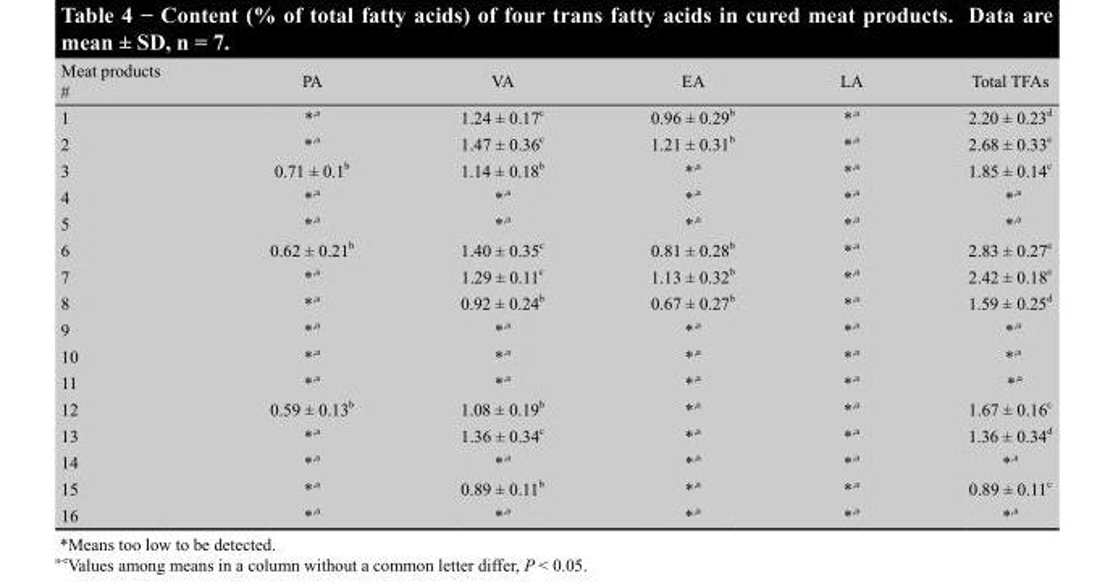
<table><thead><tr><td>Meat products #</td><td>PA</td><td>VA</td><td>EA</td><td>LA</td><td>Total TFAs</td></tr></thead><tbody><tr><td>1</td><td>* ,<sup>a</sup></td><td>1.24 ± 0.17 <sup>c</sup></td><td>0.96 ± 0.29 <sup>b</sup></td><td>* ,<sup>a</sup></td><td>2.20 ± 0.23 <sup>d</sup></td></tr><tr><td>2</td><td>* ,<sup>a</sup></td><td>1.47 ± 0.36 <sup>c</sup></td><td>1.21 ± 0.31 <sup>b</sup></td><td>* ,<sup>a</sup></td><td>2.68 ± 0.33 <sup>e</sup></td></tr><tr><td>3</td><td>0.71 ± 0.1 <sup>b</sup></td><td>1.14 ± 0.18 <sup>b</sup></td><td>* ,<sup>a</sup></td><td>* ,<sup>a</sup></td><td>1.85 ± 0.14 <sup>c</sup></td></tr><tr><td>4</td><td>* ,<sup>a</sup></td><td>* ,<sup>a</sup></td><td>* ,<sup>a</sup></td><td>* ,<sup>a</sup></td><td>* ,<sup>a</sup></td></tr><tr><td>5</td><td>* ,<sup>a</sup></td><td>* ,<sup>a</sup></td><td>* ,<sup>a</sup></td><td>* ,<sup>a</sup></td><td>* ,<sup>a</sup></td></tr><tr><td>6</td><td>0.62 ± 0.21 <sup>b</sup></td><td>1.40 ± 0.35 <sup>c</sup></td><td>0.81 ± 0.28 <sup>b</sup></td><td>* ,<sup>a</sup></td><td>2.83 ± 0.27 <sup>e</sup></td></tr><tr><td>7</td><td>* ,<sup>a</sup></td><td>1.29 ± 0.11 <sup>c</sup></td><td>1.13 ± 0.32 <sup>b</sup></td><td>* ,<sup>a</sup></td><td>2.42 ± 0.18 <sup>e</sup></td></tr><tr><td>8</td><td>* ,<sup>a</sup></td><td>0.92 ± 0.24 <sup>b</sup></td><td>0.67 ± 0.27 <sup>b</sup></td><td>* ,<sup>a</sup></td><td>1.59 ± 0.25 <sup>d</sup></td></tr><tr><td>9</td><td>* ,<sup>a</sup></td><td>* ,<sup>a</sup></td><td>* ,<sup>a</sup></td><td>* ,<sup>a</sup></td><td>* ,<sup>a</sup></td></tr><tr><td>10</td><td>* ,<sup>a</sup></td><td>* ,<sup>a</sup></td><td>* ,<sup>a</sup></td><td>* ,<sup>a</sup></td><td>* ,<sup>a</sup></td></tr><tr><td>11</td><td>* ,<sup>a</sup></td><td>* ,<sup>a</sup></td><td>* ,<sup>a</sup></td><td>* ,<sup>a</sup></td><td>* ,<sup>a</sup></td></tr><tr><td>12</td><td>0.59 ± 0.13 <sup>b</sup></td><td>1.08 ± 0.19 <sup>b</sup></td><td>* ,<sup>a</sup></td><td>* ,<sup>a</sup></td><td>1.67 ± 0.16 <sup>c</sup></td></tr><tr><td>13</td><td>* ,<sup>a</sup></td><td>1.36 ± 0.34 <sup>c</sup></td><td>* ,<sup>a</sup></td><td>* ,<sup>a</sup></td><td>1.36 ± 0.34 <sup>d</sup></td></tr><tr><td>14</td><td>* ,<sup>a</sup></td><td>* ,<sup>a</sup></td><td>* ,<sup>a</sup></td><td>* ,<sup>a</sup></td><td>* ,<sup>a</sup></td></tr><tr><td>15</td><td>* ,<sup>a</sup></td><td>0.89 ± 0.11 <sup>b</sup></td><td>* ,<sup>a</sup></td><td>* ,<sup>a</sup></td><td>0.89 ± 0.11 <sup>c</sup></td></tr><tr><td>16</td><td>* ,<sup>a</sup></td><td>* ,<sup>a</sup></td><td>* ,<sup>a</sup></td><td>* ,<sup>a</sup></td><td>* ,<sup>a</sup></td></tr></tbody></table>